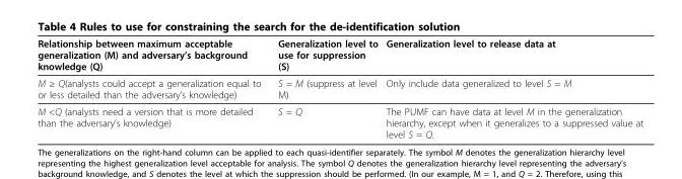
<table><thead><tr><td>Relationship between maximum acceptable generalization (M) and adversary’s background knowledge (Q)</td><td>Generalization level to use for suppression (S)</td><td>Generalization level to release data at</td></tr></thead><tbody><tr><td>M ≥ Q(analysts could accept a generalization equal to or less detailed than the adversary’s knowledge)</td><td>S = M (suppress at level M)</td><td>Only include data generalized to level S = M</td></tr><tr><td>M &lt;Q (analysts need a version that is more detailed than the adversary’s knowledge)</td><td>S = Q</td><td>The PUMF can have data at level M in the generalization hierarchy, except when it generalizes to a suppressed value at level S = Q.</td></tr></tbody></table>